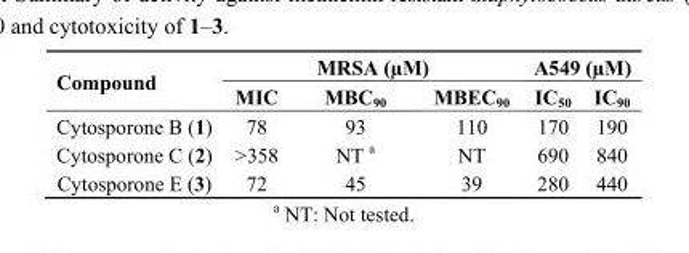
<table><thead><tr><td rowspan="2">Compound</td><td colspan="3">MRSA (µM)</td><td colspan="2">A549 (µM)</td></tr><tr><td>MIC</td><td>MBC<sub>90</sub></td><td>MBEC<sub>90</sub></td><td>IC<sub>50</sub></td><td>IC<sub>90</sub></td></tr></thead><tbody><tr><td>Cytosporone B (1)</td><td>78</td><td>93</td><td>110</td><td>170</td><td>190</td></tr><tr><td>Cytosporone C (2)</td><td>&gt;358</td><td>NT <sup>a</sup></td><td>NT</td><td>690</td><td>840</td></tr><tr><td>Cytosporone E (3)</td><td>72</td><td>45</td><td>39</td><td>280</td><td>440</td></tr></tbody></table>